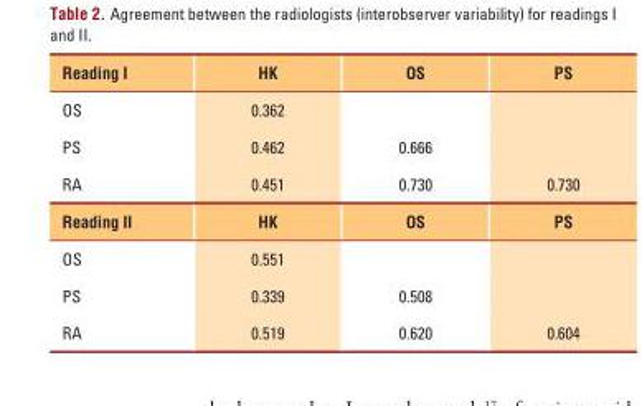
<table><thead><tr><td>Reading I</td><td>HK</td><td>OS</td><td>PS</td></tr></thead><tbody><tr><td>OS</td><td>0.362</td><td></td><td></td></tr><tr><td>PS</td><td>0.462</td><td>0.666</td><td></td></tr><tr><td>RA</td><td>0.451</td><td>0.730</td><td>0.730</td></tr><tr><td>Reading II</td><td>HK</td><td>OS</td><td>PS</td></tr><tr><td>OS</td><td>0.551</td><td></td><td></td></tr><tr><td>PS</td><td>0.339</td><td>0.508</td><td></td></tr><tr><td>RA</td><td>0.519</td><td>0.620</td><td>0.604</td></tr></tbody></table>